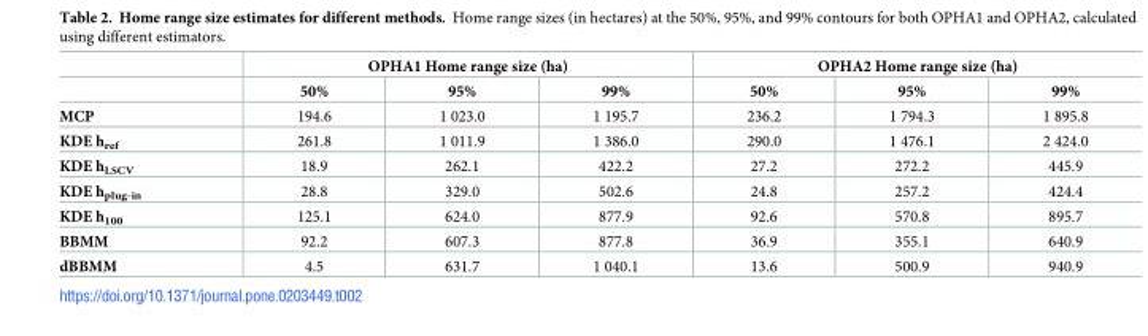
<table><thead><tr><td rowspan="2"></td><td colspan="3">OPHA1 Home range size (ha)</td><td colspan="3">OPHA2 Home range size (ha)</td></tr><tr><td>50%</td><td>95%</td><td>99%</td><td>50%</td><td>95%</td><td>99%</td></tr></thead><tbody><tr><td>MCP</td><td>194.6</td><td>1 023.0</td><td>1 195.7</td><td>236.2</td><td>1 794.3</td><td>1 895.8</td></tr><tr><td>KDE h<sub>ref</sub></td><td>261.8</td><td>1 011.9</td><td>1 386.0</td><td>290.0</td><td>1 476.1</td><td>2 424.0</td></tr><tr><td>KDE h<sub>LSCV</sub></td><td>18.9</td><td>262.1</td><td>422.2</td><td>27.2</td><td>272.2</td><td>445.9</td></tr><tr><td>KDE h<sub>plug-in</sub></td><td>28.8</td><td>329.0</td><td>502.6</td><td>24.8</td><td>257.2</td><td>424.4</td></tr><tr><td>KDE h<sub>100</sub></td><td>125.1</td><td>624.0</td><td>877.9</td><td>92.6</td><td>570.8</td><td>895.7</td></tr><tr><td>BBMM</td><td>92.2</td><td>607.3</td><td>877.8</td><td>36.9</td><td>355.1</td><td>640.9</td></tr><tr><td>dBBMM</td><td>4.5</td><td>631.7</td><td>1 040.1</td><td>13.6</td><td>500.9</td><td>940.9</td></tr></tbody></table>